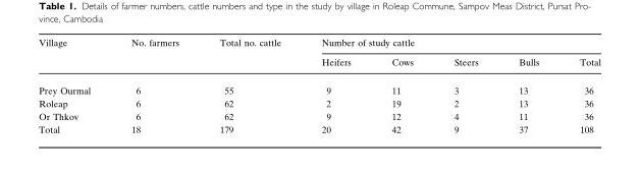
<table><thead><tr><td rowspan="2">Village</td><td rowspan="2">No. farmers</td><td rowspan="2">Total no. cattle</td><td colspan="5">Number of study cattle</td></tr><tr><td>Heifers</td><td>Cows</td><td>Steers</td><td>Bulls</td><td>Total</td></tr></thead><tbody><tr><td>Prey Ourmal</td><td>6</td><td>55</td><td>9</td><td>11</td><td>3</td><td>13</td><td>36</td></tr><tr><td>Roleap</td><td>6</td><td>62</td><td>2</td><td>19</td><td>2</td><td>13</td><td>36</td></tr><tr><td>Or Thkov</td><td>6</td><td>62</td><td>9</td><td>12</td><td>4</td><td>11</td><td>36</td></tr><tr><td>Total</td><td>18</td><td>179</td><td>20</td><td>42</td><td>9</td><td>37</td><td>108</td></tr></tbody></table>